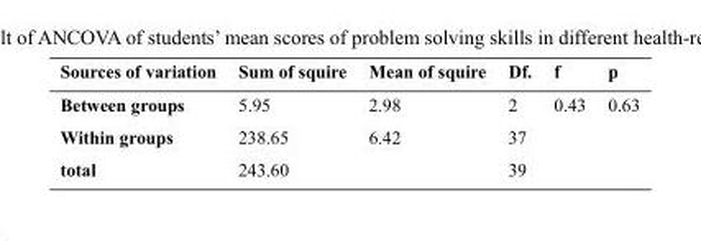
<table><thead><tr><td>Sources of variation</td><td>Sum of squire</td><td>Mean of squire</td><td>Df.</td><td>f</td><td>p</td></tr></thead><tbody><tr><td>Between groups</td><td>5.95</td><td>2.98</td><td>2</td><td>0.43</td><td>0.63</td></tr><tr><td>Within groups</td><td>238.65</td><td>6.42</td><td>37</td><td></td><td></td></tr><tr><td>total</td><td>243.60</td><td></td><td>39</td><td></td><td></td></tr></tbody></table>